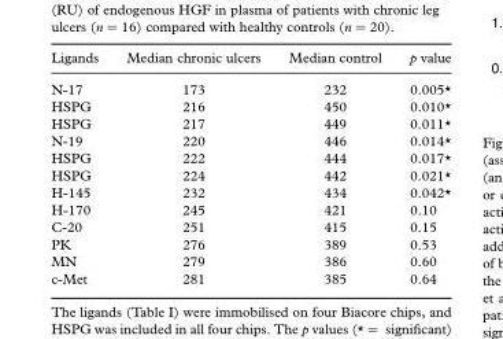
<table><thead><tr><td>Ligands</td><td>Median chronic ulcers</td><td>Median control</td><td>p value</td></tr></thead><tbody><tr><td>N-17</td><td>173</td><td>232</td><td>0.005*</td></tr><tr><td>HSPG</td><td>216</td><td>450</td><td>0.010*</td></tr><tr><td>HSPG</td><td>217</td><td>449</td><td>0.011*</td></tr><tr><td>N-19</td><td>220</td><td>446</td><td>0.014*</td></tr><tr><td>HSPG</td><td>222</td><td>444</td><td>0.017*</td></tr><tr><td>HSPG</td><td>224</td><td>442</td><td>0.021*</td></tr><tr><td>H-145</td><td>232</td><td>434</td><td>0.042*</td></tr><tr><td>H-170</td><td>245</td><td>421</td><td>0.10</td></tr><tr><td>C-20</td><td>251</td><td>415</td><td>0.15</td></tr><tr><td>PK</td><td>276</td><td>389</td><td>0.53</td></tr><tr><td>MN</td><td>279</td><td>386</td><td>0.60</td></tr><tr><td>c-Met</td><td>281</td><td>385</td><td>0.64</td></tr></tbody></table>